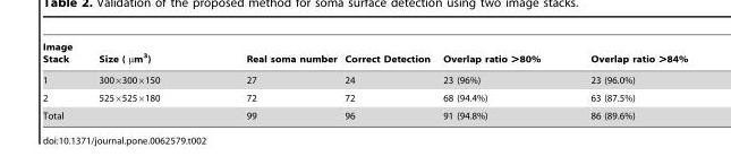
<table><thead><tr><td>Image Stack</td><td>Size ( µm<sup>3</sup>)</td><td>Real soma number</td><td>Correct Detection</td><td>Overlap ratio &gt;80%</td><td>Overlap ratio &gt;84%</td></tr></thead><tbody><tr><td>1</td><td>300×300×150</td><td>27</td><td>24</td><td>23 (96%)</td><td>23 (96.0%)</td></tr><tr><td>2</td><td>525×525×180</td><td>72</td><td>72</td><td>68 (94.4%)</td><td>63 (87.5%)</td></tr><tr><td colspan="2">Total</td><td>99</td><td>96</td><td>91 (94.8%)</td><td>86 (89.6%)</td></tr></tbody></table>